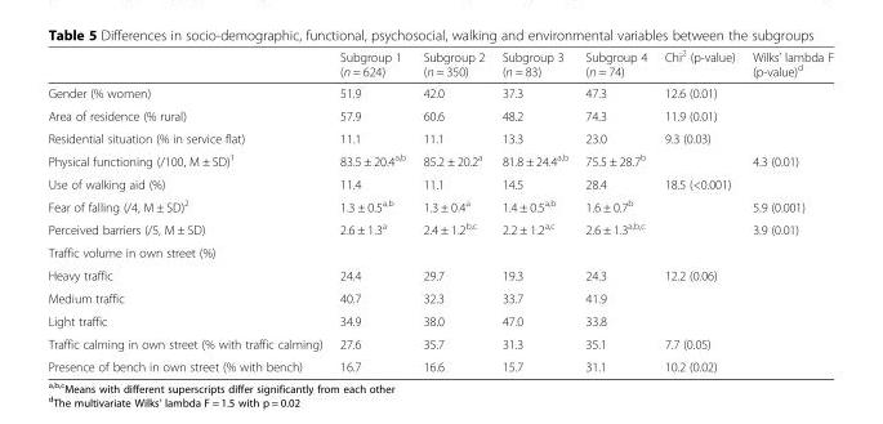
<table><thead><tr><td></td><td>Subgroup 1 (n = 624)</td><td>Subgroup 2 (n = 350)</td><td>Subgroup 3 (n = 83)</td><td>Subgroup 4 (n = 74)</td><td>Chi<sup>2</sup> (p-value)</td><td>Wilks’ lambda F (p-value)<sup>d</sup></td></tr></thead><tbody><tr><td>Gender (% women)</td><td>51.9</td><td>42.0</td><td>37.3</td><td>47.3</td><td>12.6 (0.01)</td><td></td></tr><tr><td>Area of residence (% rural)</td><td>57.9</td><td>60.6</td><td>48.2</td><td>74.3</td><td>11.9 (0.01)</td><td></td></tr><tr><td>Residential situation (% in service flat)</td><td>11.1</td><td>11.1</td><td>13.3</td><td>23.0</td><td>9.3 (0.03)</td><td></td></tr><tr><td>Physical functioning (/100, M ± SD)<sup>1</sup></td><td>83.5 ± 20.4<sup>a,b</sup></td><td>85.2 ± 20.2<sup>a</sup></td><td>81.8 ± 24.4<sup>a,b</sup></td><td>75.5 ± 28.7<sup>b</sup></td><td></td><td>4.3 (0.01)</td></tr><tr><td>Use of walking aid (%)</td><td>11.4</td><td>11.1</td><td>14.5</td><td>28.4</td><td>18.5 (&lt;0.001)</td><td></td></tr><tr><td>Fear of falling (/4, M ± SD)<sup>2</sup></td><td>1.3 ± 0.5<sup>a,b</sup></td><td>1.3 ± 0.4<sup>a</sup></td><td>1.4 ± 0.5<sup>a,b</sup></td><td>1.6 ± 0.7<sup>b</sup></td><td></td><td>5.9 (0.001)</td></tr><tr><td>Perceived barriers (/5, M ± SD)</td><td>2.6 ± 1.3<sup>a</sup></td><td>2.4 ± 1.2<sup>b,c</sup></td><td>2.2 ± 1.2<sup>a,c</sup></td><td>2.6 ± 1.3<sup>a,b,c</sup></td><td></td><td>3.9 (0.01)</td></tr><tr><td colspan="7">Traffic volume in own street (%)</td></tr><tr><td>Heavy traffic</td><td>24.4</td><td>29.7</td><td>19.3</td><td>24.3</td><td>12.2 (0.06)</td><td></td></tr><tr><td>Medium traffic</td><td>40.7</td><td>32.3</td><td>33.7</td><td>41.9</td><td></td><td></td></tr><tr><td>Light traffic</td><td>34.9</td><td>38.0</td><td>47.0</td><td>33.8</td><td></td><td></td></tr><tr><td>Traffic calming in own street (% with traffic calming)</td><td>27.6</td><td>35.7</td><td>31.3</td><td>35.1</td><td>7.7 (0.05)</td><td></td></tr><tr><td>Presence of bench in own street (% with bench)</td><td>16.7</td><td>16.6</td><td>15.7</td><td>31.1</td><td>10.2 (0.02)</td><td></td></tr></tbody></table>